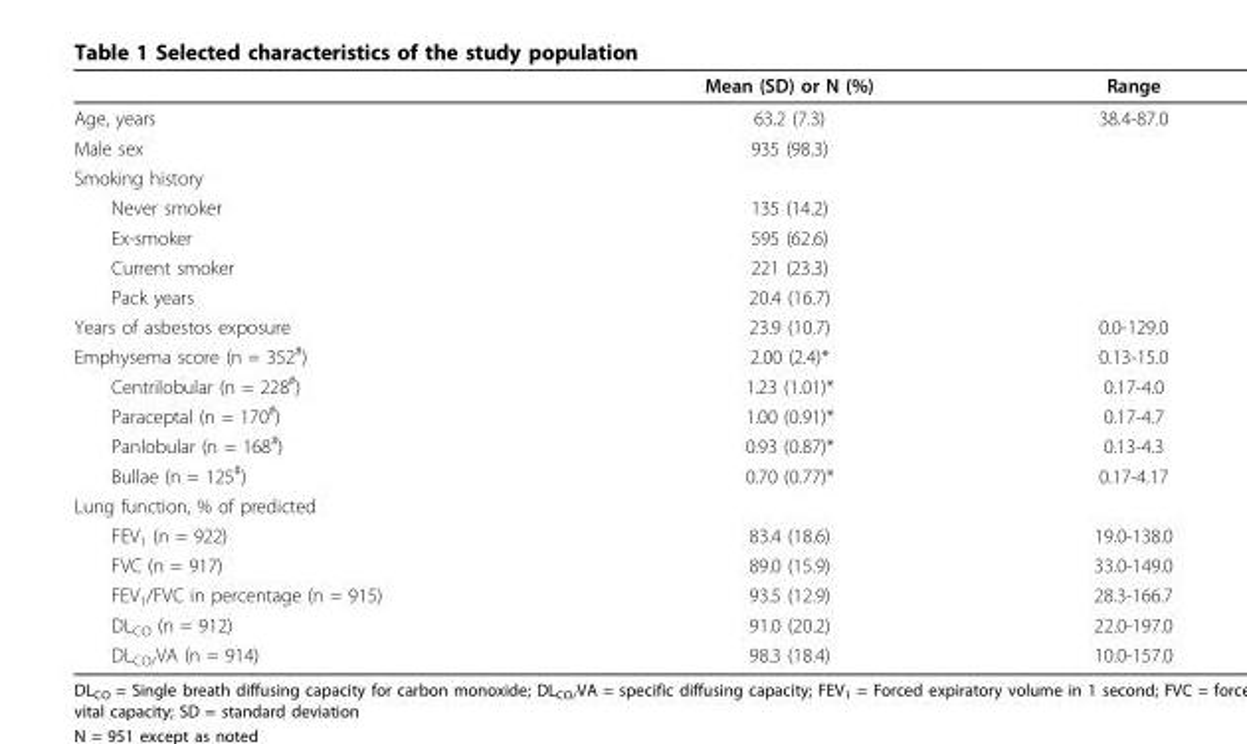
<table><thead><tr><td></td><td>Mean (SD) or N (%)</td><td>Range</td></tr></thead><tbody><tr><td>Age, years</td><td>63.2 (7.3)</td><td>38.4-87.0</td></tr><tr><td>Male sex</td><td>935 (98.3)</td><td></td></tr><tr><td colspan="3">Smoking history</td></tr><tr><td>Never smoker</td><td>135 (14.2)</td><td></td></tr><tr><td>Ex-smoker</td><td>595 (62.6)</td><td></td></tr><tr><td>Current smoker</td><td>221 (23.3)</td><td></td></tr><tr><td>Pack years</td><td>20.4 (16.7)</td><td></td></tr><tr><td>Years of asbestos exposure</td><td>23.9 (10.7)</td><td>0.0-129.0</td></tr><tr><td>Emphysema score (n = 352<sup>#</sup>)</td><td>2.00 (2.4)*</td><td>0.13-15.0</td></tr><tr><td>Centrilobular (n = 228<sup>#</sup>)</td><td>1.23 (1.01)*</td><td>0.17-4.0</td></tr><tr><td>Paraceptal (n = 170<sup>#</sup>)</td><td>1.00 (0.91)*</td><td>0.17-4.7</td></tr><tr><td>Panlobular (n = 168<sup>#</sup>)</td><td>0.93 (0.87)*</td><td>0.13-4.3</td></tr><tr><td>Bullae (n = 125<sup>#</sup>)</td><td>0.70 (0.77)*</td><td>0.17-4.17</td></tr><tr><td colspan="3">Lung function, % of predicted</td></tr><tr><td>FEV<sub>1</sub> (n = 922)</td><td>83.4 (18.6)</td><td>19.0-138.0</td></tr><tr><td>FVC (n = 917)</td><td>89.0 (15.9)</td><td>33.0-149.0</td></tr><tr><td>FEV<sub>1</sub>/FVC in percentage (n = 915)</td><td>93.5 (12.9)</td><td>28.3-166.7</td></tr><tr><td>DL<sub>CO</sub> (n = 912)</td><td>91.0 (20.2)</td><td>22.0-197.0</td></tr><tr><td>DL<sub>CO/</sub>VA (n = 914)</td><td>98.3 (18.4)</td><td>10.0-157.0</td></tr></tbody></table>